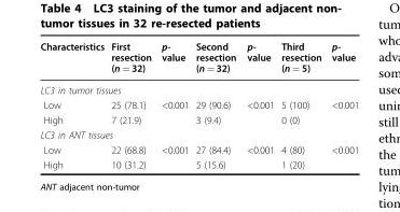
<table><thead><tr><td>Characteristics</td><td>First resection (n = 32)</td><td>p- value</td><td>Second resection (n = 32)</td><td>p- value</td><td>Third resection (n = 5)</td><td>p- value</td></tr></thead><tbody><tr><td colspan="7">LC3 in tumor tissues</td></tr><tr><td>Low</td><td>25 (78.1)</td><td>&lt;0.001</td><td>29 (90.6)</td><td>&lt;0.001</td><td>5 (100)</td><td>&lt;0.001</td></tr><tr><td>High</td><td>7 (21.9)</td><td></td><td>3 (9.4)</td><td></td><td>0 (0)</td><td></td></tr><tr><td colspan="7">LC3 in ANT tissues</td></tr><tr><td>Low</td><td>22 (68.8)</td><td>&lt;0.001</td><td>27 (84.4)</td><td>&lt;0.001</td><td>4 (80)</td><td>&lt;0.001</td></tr><tr><td>High</td><td>10 (31.2)</td><td></td><td>5 (15.6)</td><td></td><td>1 (20)</td><td></td></tr></tbody></table>